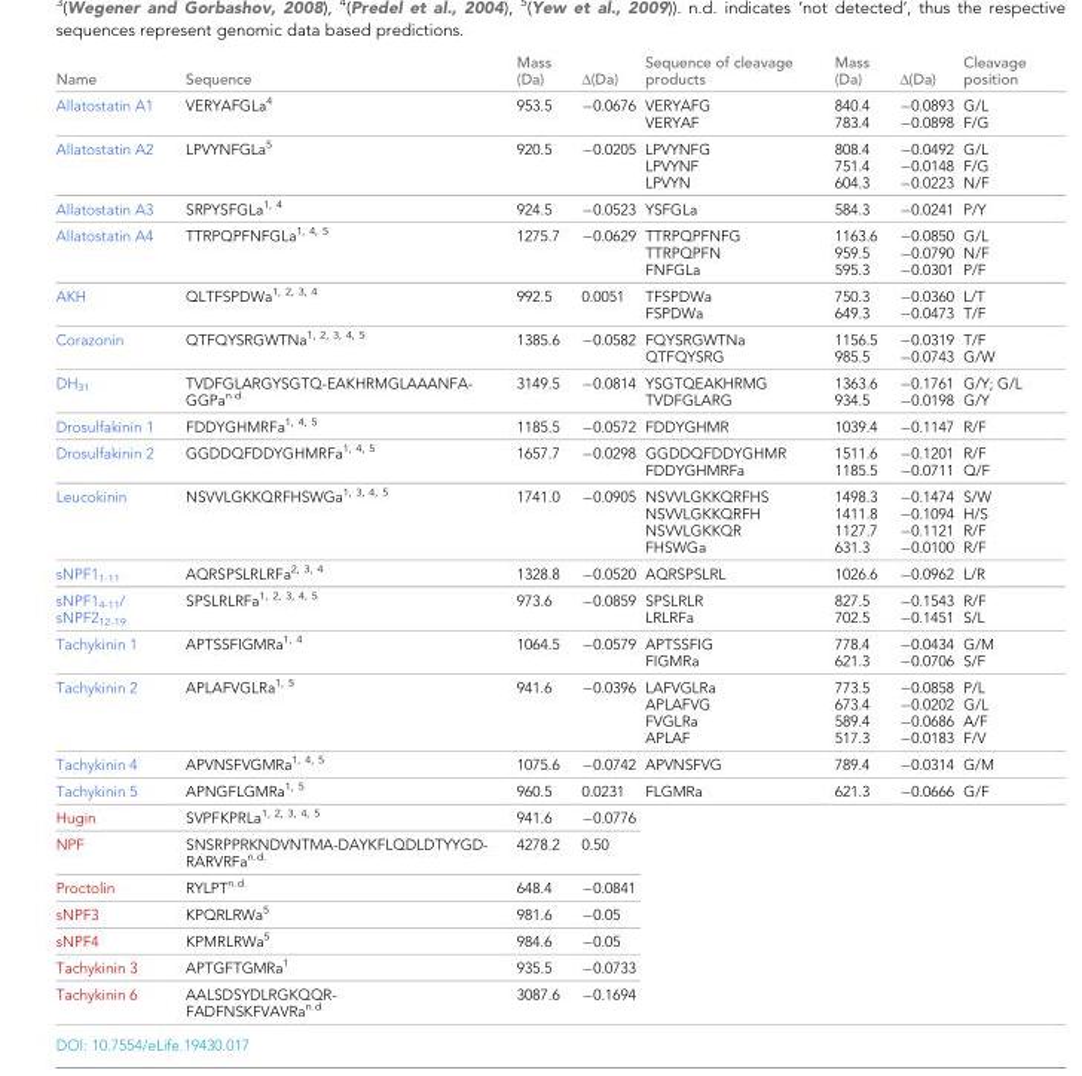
<table><thead><tr><td>Name</td><td>Sequence</td><td>Mass (Da)</td><td>Δ(Da)</td><td>Sequence of cleavage products</td><td>Mass (Da)</td><td>Δ(Da)</td><td>Cleavage position</td></tr></thead><tbody><tr><td>Allatostatin A1</td><td>VERYAFGLa<sup>4</sup></td><td>953.5</td><td>−0.0676</td><td>VERYAFG VERYAF</td><td>840.4 783.4</td><td>−0.0893 −0.0898</td><td>G/L F/G</td></tr><tr><td>Allatostatin A2</td><td>LPVYNFGLa<sup>5</sup></td><td>920.5</td><td>−0.0205</td><td>LPVYNFG LPVYNF LPVYN</td><td>808.4 751.4 604.3</td><td>−0.0492 −0.0148 −0.0223</td><td>G/L F/G N/F</td></tr><tr><td>Allatostatin A3</td><td>SRPYSFGLa<sup>1, 4</sup></td><td>924.5</td><td>−0.0523</td><td>YSFGLa</td><td>584.3</td><td>−0.0241</td><td>P/Y</td></tr><tr><td>Allatostatin A4</td><td>TTRPQPFNFGLa<sup>1, 4, 5</sup></td><td>1275.7</td><td>−0.0629</td><td>TTRPQPFNFG TTRPQPFN FNFGLa</td><td>1163.6 959.5 595.3</td><td>−0.0850 −0.0790 −0.0301</td><td>G/L N/F P/F</td></tr><tr><td>AKH</td><td>QLTFSPDWa<sup>1, 2, 3, 4</sup></td><td>992.5</td><td>0.0051</td><td>TFSPDWa FSPDWa</td><td>750.3 649.3</td><td>−0.0360 −0.0473</td><td>L/T T/F</td></tr><tr><td>Corazonin</td><td>QTFQYSRGWTNa<sup>1, 2, 3, 4, 5</sup></td><td>1385.6</td><td>−0.0582</td><td>FQYSRGWTNa QTFQYSRG</td><td>1156.5 985.5</td><td>−0.0319 −0.0743</td><td>T/F G/W</td></tr><tr><td>DH<sub>31</sub></td><td>TVDFGLARGYSGTQ-EAKHRMGLAAANFA- GGPa<sup>n.d.</sup></td><td>3149.5</td><td>−0.0814</td><td>YSGTQEAKHRMG TVDFGLARG</td><td>1363.6 934.5</td><td>−0.1761 −0.0198</td><td>G/Y; G/L G/Y</td></tr><tr><td>Drosulfakinin 1</td><td>FDDYGHMRFa<sup>1, 4, 5</sup></td><td>1185.5</td><td>−0.0572</td><td>FDDYGHMR</td><td>1039.4</td><td>−0.1147</td><td>R/F</td></tr><tr><td>Drosulfakinin 2</td><td>GGDDQFDDYGHMRFa<sup>1, 4, 5</sup></td><td>1657.7</td><td>−0.0298</td><td>GGDDQFDDYGHMR FDDYGHMRFa</td><td>1511.6 1185.5</td><td>−0.1201 −0.0711</td><td>R/F Q/F</td></tr><tr><td>Leucokinin</td><td>NSVVLGKKQRFHSWGa<sup>1, 3, 4, 5</sup></td><td>1741.0</td><td>−0.0905</td><td>NSVVLGKKQRFHS NSVVLGKKQRFH NSVVLGKKQR FHSWGa</td><td>1498.3 1411.8 1127.7 631.3</td><td>−0.1474 −0.1094 −0.1121 −0.0100</td><td>S/W H/S R/F R/F</td></tr><tr><td>sNPF1<sub>1-11</sub></td><td>AQRSPSLRLRFa<sup>2, 3, 4</sup></td><td>1328.8</td><td>−0.0520</td><td>AQRSPSLRL</td><td>1026.6</td><td>−0.0962</td><td>L/R</td></tr><tr><td>sNPF1<sub>4-11</sub>/ sNPF2<sub>12-19</sub></td><td>SPSLRLRFa<sup>1, 2, 3, 4, 5</sup></td><td>973.6</td><td>−0.0859</td><td>SPSLRLR LRLRFa</td><td>827.5 702.5</td><td>−0.1543 −0.1451</td><td>R/F S/L</td></tr><tr><td>Tachykinin 1</td><td>APTSSFIGMRa<sup>1, 4</sup></td><td>1064.5</td><td>−0.0579</td><td>APTSSFIG FIGMRa</td><td>778.4 621.3</td><td>−0.0434 −0.0706</td><td>G/M S/F</td></tr><tr><td>Tachykinin 2</td><td>APLAFVGLRa<sup>1, 5</sup></td><td>941.6</td><td>−0.0396</td><td>LAFVGLRa APLAFVG FVGLRa APLAF</td><td>773.5 673.4 589.4 517.3</td><td>−0.0858 −0.0202 −0.0686 −0.0183</td><td>P/L G/L A/F F/V</td></tr><tr><td>Tachykinin 4</td><td>APVNSFVGMRa<sup>1, 4, 5</sup></td><td>1075.6</td><td>−0.0742</td><td>APVNSFVG</td><td>789.4</td><td>−0.0314</td><td>G/M</td></tr><tr><td>Tachykinin 5</td><td>APNGFLGMRa<sup>1, 5</sup></td><td>960.5</td><td>0.0231</td><td>FLGMRa</td><td>621.3</td><td>−0.0666</td><td>G/F</td></tr><tr><td>Hugin</td><td>SVPFKPRLa<sup>1, 2, 3, 4, 5</sup></td><td>941.6</td><td>−0.0776</td><td rowspan="7" colspan="4"></td></tr><tr><td>NPF</td><td>SNSRPPRKNDVNTMA-DAYKFLQDLDTYYGD- RARVRFa<sup>n.d.</sup></td><td>4278.2</td><td>0.50</td></tr><tr><td>Proctolin</td><td>RYLPT<sup>n.d.</sup></td><td>648.4</td><td>−0.0841</td></tr><tr><td>sNPF3</td><td>KPQRLRWa<sup>5</sup></td><td>981.6</td><td>−0.05</td></tr><tr><td>sNPF4</td><td>KPMRLRWa<sup>5</sup></td><td>984.6</td><td>−0.05</td></tr><tr><td>Tachykinin 3</td><td>APTGFTGMRa<sup>1</sup></td><td>935.5</td><td>−0.0733</td></tr><tr><td>Tachykinin 6</td><td>AALSDSYDLRGKQQR- FADFNSKFVAVRa<sup>n.d.</sup></td><td>3087.6</td><td>−0.1694</td></tr></tbody></table>